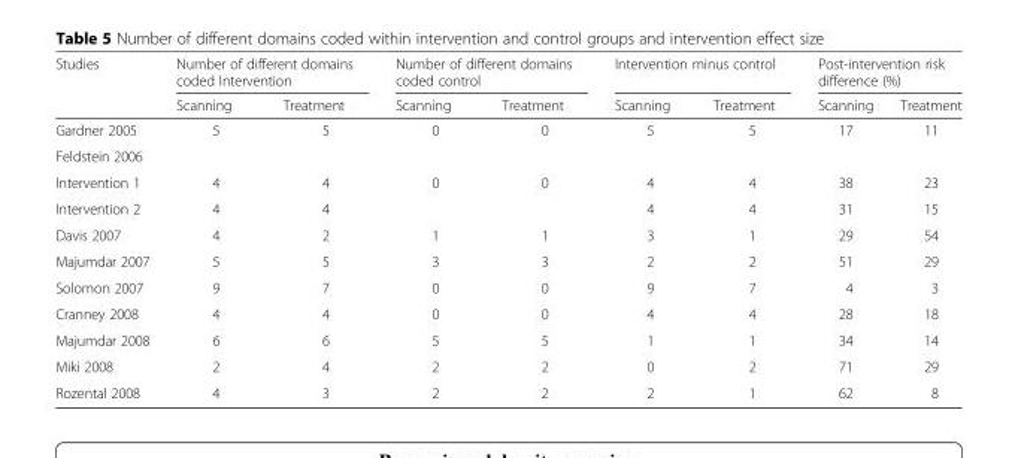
<table><thead><tr><td rowspan="2">Studies</td><td colspan="2">Number of different domains coded Intervention</td><td colspan="2">Number of different domains coded control</td><td colspan="2">Intervention minus control</td><td colspan="2">Post-intervention risk difference (%)</td></tr><tr><td>Scanning</td><td>Treatment</td><td>Scanning</td><td>Treatment</td><td>Scanning</td><td>Treatment</td><td>Scanning</td><td>Treatment</td></tr></thead><tbody><tr><td>Gardner 2005</td><td>5</td><td>5</td><td>0</td><td>0</td><td>5</td><td>5</td><td>17</td><td>11</td></tr><tr><td colspan="9">Feldstein 2006</td></tr><tr><td>Intervention 1</td><td>4</td><td>4</td><td>0</td><td>0</td><td>4</td><td>4</td><td>38</td><td>23</td></tr><tr><td>Intervention 2</td><td>4</td><td>4</td><td></td><td></td><td>4</td><td>4</td><td>31</td><td>15</td></tr><tr><td>Davis 2007</td><td>4</td><td>2</td><td>1</td><td>1</td><td>3</td><td>1</td><td>29</td><td>54</td></tr><tr><td>Majumdar 2007</td><td>5</td><td>5</td><td>3</td><td>3</td><td>2</td><td>2</td><td>51</td><td>29</td></tr><tr><td>Solomon 2007</td><td>9</td><td>7</td><td>0</td><td>0</td><td>9</td><td>7</td><td>4</td><td>3</td></tr><tr><td>Cranney 2008</td><td>4</td><td>4</td><td>0</td><td>0</td><td>4</td><td>4</td><td>28</td><td>18</td></tr><tr><td>Majumdar 2008</td><td>6</td><td>6</td><td>5</td><td>5</td><td>1</td><td>1</td><td>34</td><td>14</td></tr><tr><td>Miki 2008</td><td>2</td><td>4</td><td>2</td><td>2</td><td>0</td><td>2</td><td>71</td><td>29</td></tr><tr><td>Rozental 2008</td><td>4</td><td>3</td><td>2</td><td>2</td><td>2</td><td>1</td><td>62</td><td>8</td></tr></tbody></table>